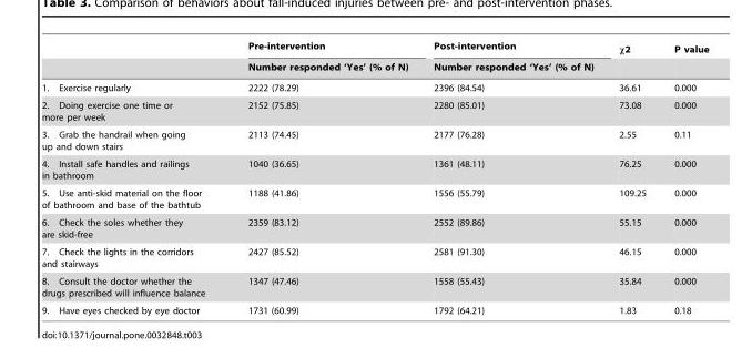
<table><thead><tr><td rowspan="2"></td><td rowspan="2">Pre-intervention Number responded ‘Yes’ (% of N)</td><td rowspan="2">Post-intervention Number responded ‘Yes’ (% of N)</td><td rowspan="2">χ2</td><td rowspan="2">P value</td></tr><tr></tr></thead><tbody><tr><td>1. Exercise regularly</td><td>2222 (78.29)</td><td>2396 (84.54)</td><td>36.61</td><td>0.000</td></tr><tr><td>2. Doing exercise one time or more per week</td><td>2152 (75.85)</td><td>2280 (85.01)</td><td>73.08</td><td>0.000</td></tr><tr><td>3. Grab the handrail when going up and down stairs</td><td>2113 (74.45)</td><td>2177 (76.28)</td><td>2.55</td><td>0.11</td></tr><tr><td>4. Install safe handles and railings in bathroom</td><td>1040 (36.65)</td><td>1361 (48.11)</td><td>76.25</td><td>0.000</td></tr><tr><td>5. Use anti-skid material on the floor of bathroom and base of the bathtub</td><td>1188 (41.86)</td><td>1556 (55.79)</td><td>109.25</td><td>0.000</td></tr><tr><td>6. Check the soles whether they are skid-free</td><td>2359 (83.12)</td><td>2552 (89.86)</td><td>55.15</td><td>0.000</td></tr><tr><td>7. Check the lights in the corridors and stairways</td><td>2427 (85.52)</td><td>2581 (91.30)</td><td>46.15</td><td>0.000</td></tr><tr><td>8. Consult the doctor whether the drugs prescribed will influence balance</td><td>1347 (47.46)</td><td>1558 (55.43)</td><td>35.84</td><td>0.000</td></tr><tr><td>9. Have eyes checked by eye doctor</td><td>1731 (60.99)</td><td>1792 (64.21)</td><td>1.83</td><td>0.18</td></tr></tbody></table>